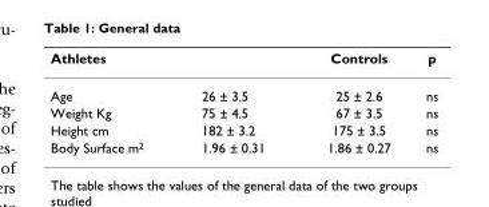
<table><thead><tr><td>Athletes</td><td></td><td>Controls</td><td>p</td></tr></thead><tbody><tr><td>Age</td><td>26 ± 3.5</td><td>25 ± 2.6</td><td>ns</td></tr><tr><td>Weight Kg</td><td>75 ± 4.5</td><td>67 ± 3.5</td><td>ns</td></tr><tr><td>Height cm</td><td>182 ± 3.2</td><td>175 ± 3.5</td><td>ns</td></tr><tr><td>Body Surface m<sup>2</sup></td><td>1.96 ± 0.31</td><td>1.86 ± 0.27</td><td>ns</td></tr></tbody></table>